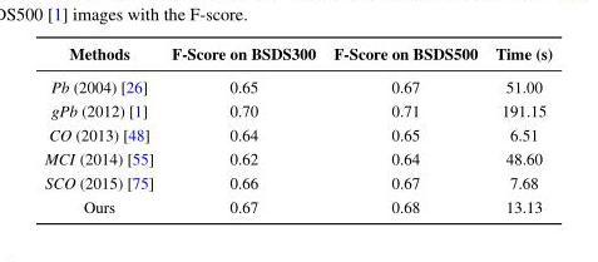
<table><thead><tr><td>Methods</td><td>F-Score on BSDS300</td><td>F-Score on BSDS500</td><td>Time (s)</td></tr></thead><tbody><tr><td>Pb (2004) [26]</td><td>0.65</td><td>0.67</td><td>51.00</td></tr><tr><td>gPb (2012) [1]</td><td>0.70</td><td>0.71</td><td>191.15</td></tr><tr><td>CO (2013) [48]</td><td>0.64</td><td>0.65</td><td>6.51</td></tr><tr><td>MCI (2014) [55]</td><td>0.62</td><td>0.64</td><td>48.60</td></tr><tr><td>SCO (2015) [75]</td><td>0.66</td><td>0.67</td><td>7.68</td></tr><tr><td>Ours</td><td>0.67</td><td>0.68</td><td>13.13</td></tr></tbody></table>